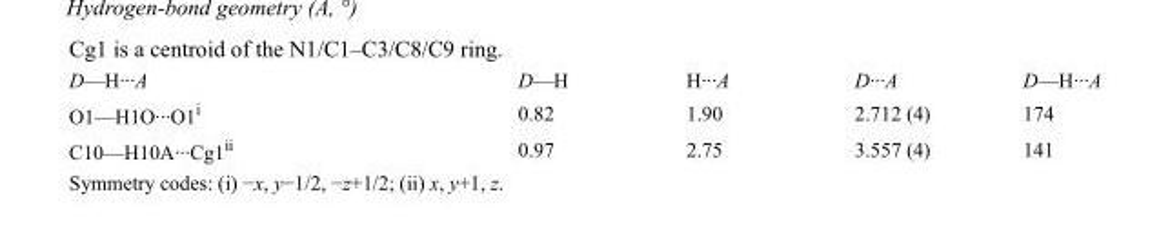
<table><tbody><tr><td>D—H···A</td><td>D—H</td><td>H···A</td><td>D···A</td><td>D—H···A</td></tr><tr><td>O1—H1O···O1<sup>i</sup></td><td>0.82</td><td>1.90</td><td>2.712 (4)</td><td>174</td></tr><tr><td>C10—H10A···Cg1<sup>ii</sup></td><td>0.97</td><td>2.75</td><td>3.557 (4)</td><td>141</td></tr></tbody></table>